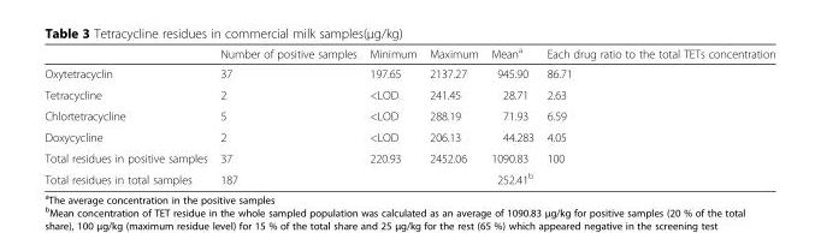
<table><thead><tr><td></td><td>Number of positive samples</td><td>Minimum</td><td>Maximum</td><td>Mean<sup>a</sup></td><td>Each drug ratio to the total TETs concentration</td></tr></thead><tbody><tr><td>Oxytetracyclin</td><td>37</td><td>197.65</td><td>2137.27</td><td>945.90</td><td>86.71</td></tr><tr><td>Tetracycline</td><td>2</td><td>&lt;LOD</td><td>241.45</td><td>28.71</td><td>2.63</td></tr><tr><td>Chlortetracycline</td><td>5</td><td>&lt;LOD</td><td>288.19</td><td>71.93</td><td>6.59</td></tr><tr><td>Doxycycline</td><td>2</td><td>&lt;LOD</td><td>206.13</td><td>44.283</td><td>4.05</td></tr><tr><td>Total residues in positive samples</td><td>37</td><td>220.93</td><td>2452.06</td><td>1090.83</td><td>100</td></tr><tr><td>Total residues in total samples</td><td>187</td><td></td><td></td><td>252.41<sup>b</sup></td><td></td></tr></tbody></table>